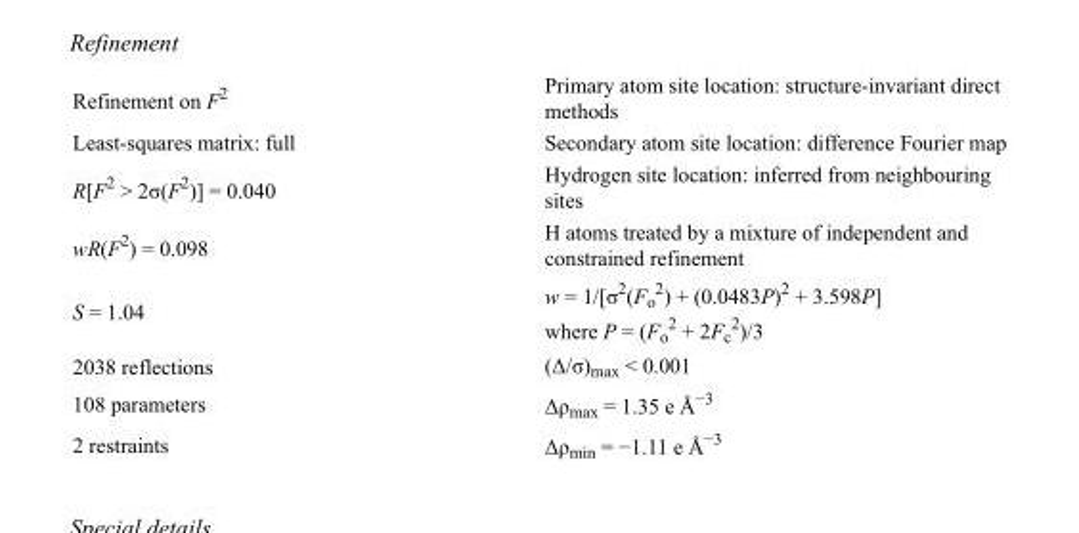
<table><tbody><tr><td>Refinement on F<sup>2</sup></td><td>Primary atom site location: structure-invariant direct methods</td></tr><tr><td>Least-squares matrix: full</td><td>Secondary atom site location: difference Fourier map</td></tr><tr><td>R[F<sup>2</sup> &gt; 2σ(F<sup>2</sup>)] = 0.040</td><td>Hydrogen site location: inferred from neighbouring sites</td></tr><tr><td>wR(F<sup>2</sup>) = 0.098</td><td>H atoms treated by a mixture of independent and constrained refinement</td></tr><tr><td>S = 1.04</td><td>w = 1/[σ<sup>2</sup>(F<sub>o</sub> <sup>2</sup>) + (0.0483P)<sup>2</sup> + 3.598P] where P = (F<sub>o</sub> <sup>2</sup> + 2F<sub>c</sub> <sup>2</sup>)/3</td></tr><tr><td>2038 reflections</td><td>(Δ/σ)<sub>max</sub> &lt; 0.001</td></tr><tr><td>108 parameters</td><td>Δρ<sub>max</sub> = 1.35 e Å<sup>−3</sup></td></tr><tr><td>2 restraints</td><td>Δρ<sub>min</sub> = −1.11 e Å<sup>−3</sup></td></tr></tbody></table>